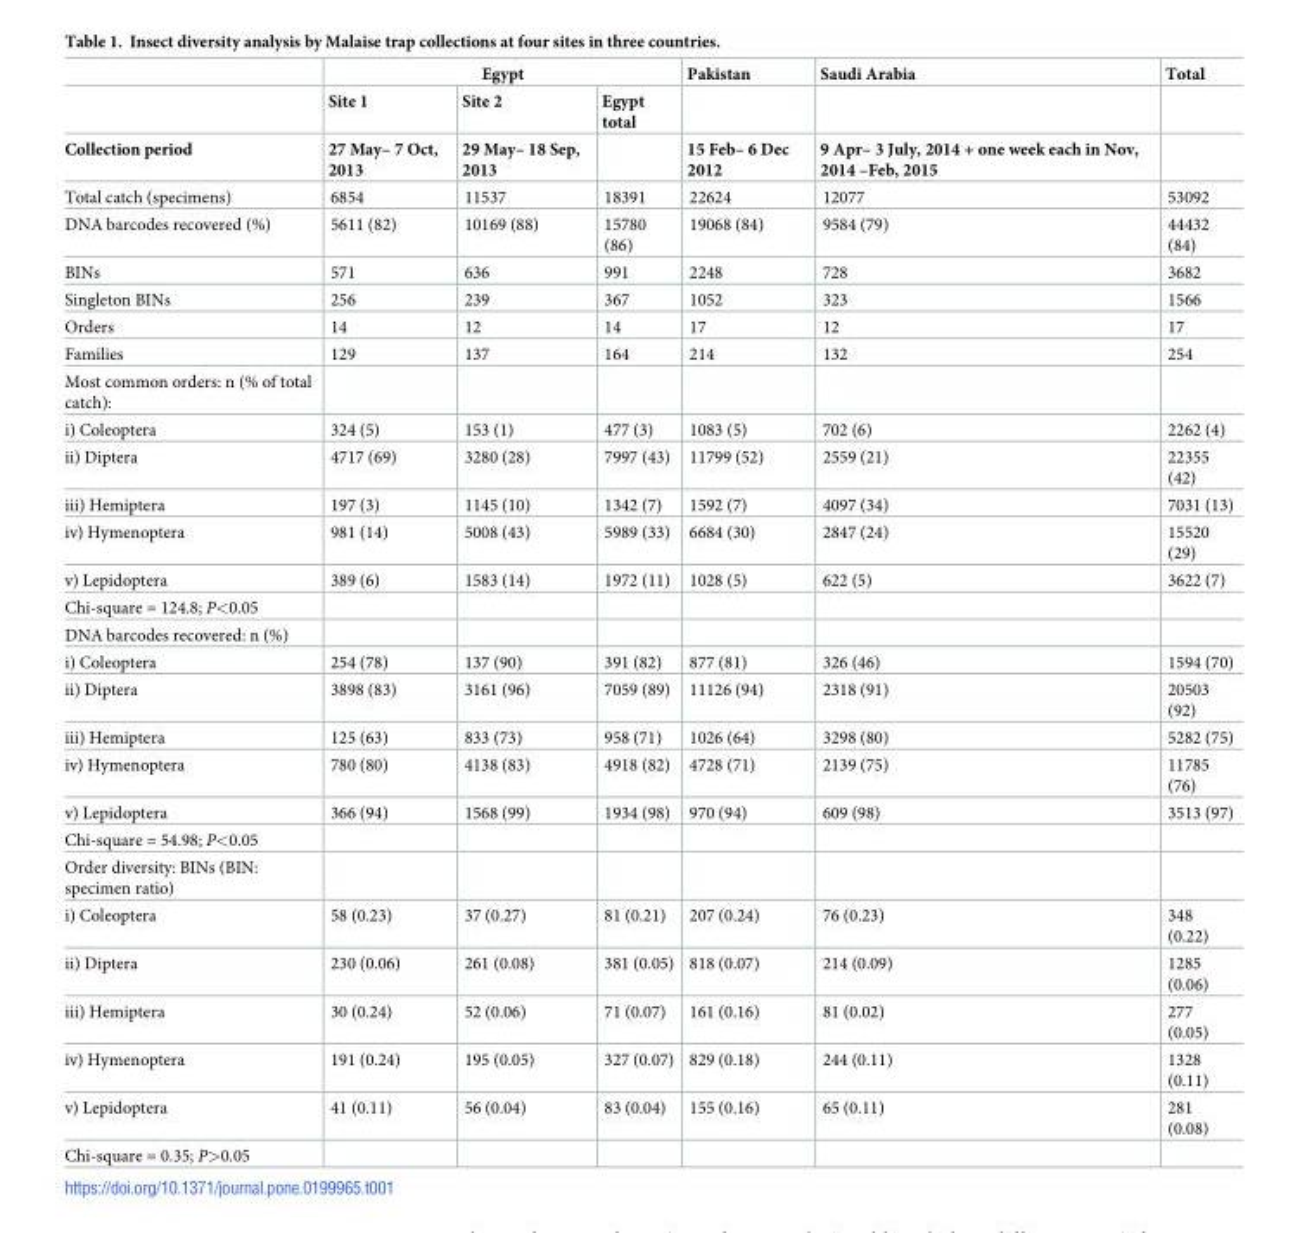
<table><thead><tr><td rowspan="3">Collection period</td><td colspan="3">Egypt</td><td rowspan="3">Pakistan 15 Feb– 6 Dec 2012</td><td rowspan="3">Saudi Arabia 9 Apr– 3 July, 2014 + one week each in Nov, 2014 –Feb, 2015</td><td rowspan="3">Total</td></tr><tr><td rowspan="2">Site 1 27 May– 7 Oct, 2013</td><td rowspan="2">Site 2 29 May– 18 Sep, 2013</td><td rowspan="2">Egypt total</td></tr><tr></tr></thead><tbody><tr><td>Total catch (specimens)</td><td>6854</td><td>11537</td><td>18391</td><td>22624</td><td>12077</td><td>53092</td></tr><tr><td>DNA barcodes recovered (%)</td><td>5611 (82)</td><td>10169 (88)</td><td>15780 (86)</td><td>19068 (84)</td><td>9584 (79)</td><td>44432 (84)</td></tr><tr><td>BINs</td><td>571</td><td>636</td><td>991</td><td>2248</td><td>728</td><td>3682</td></tr><tr><td>Singleton BINs</td><td>256</td><td>239</td><td>367</td><td>1052</td><td>323</td><td>1566</td></tr><tr><td>Orders</td><td>14</td><td>12</td><td>14</td><td>17</td><td>12</td><td>17</td></tr><tr><td>Families</td><td>129</td><td>137</td><td>164</td><td>214</td><td>132</td><td>254</td></tr><tr><td colspan="7">Most common orders: n (% of total catch):</td></tr><tr><td>i) Coleoptera</td><td>324 (5)</td><td>153 (1)</td><td>477 (3)</td><td>1083 (5)</td><td>702 (6)</td><td>2262 (4)</td></tr><tr><td>ii) Diptera</td><td>4717 (69)</td><td>3280 (28)</td><td>7997 (43)</td><td>11799 (52)</td><td>2559 (21)</td><td>22355 (42)</td></tr><tr><td>iii) Hemiptera</td><td>197 (3)</td><td>1145 (10)</td><td>1342 (7)</td><td>1592 (7)</td><td>4097 (34)</td><td>7031 (13)</td></tr><tr><td>iv) Hymenoptera</td><td>981 (14)</td><td>5008 (43)</td><td>5989 (33)</td><td>6684 (30)</td><td>2847 (24)</td><td>15520 (29)</td></tr><tr><td>v) Lepidoptera</td><td>389 (6)</td><td>1583 (14)</td><td>1972 (11)</td><td>1028 (5)</td><td>622 (5)</td><td>3622 (7)</td></tr><tr><td colspan="7">Chi-square = 124.8; P&lt;0.05</td></tr><tr><td colspan="7">DNA barcodes recovered: n (%)</td></tr><tr><td>i) Coleoptera</td><td>254 (78)</td><td>137 (90)</td><td>391 (82)</td><td>877 (81)</td><td>326 (46)</td><td>1594 (70)</td></tr><tr><td>ii) Diptera</td><td>3898 (83)</td><td>3161 (96)</td><td>7059 (89)</td><td>11126 (94)</td><td>2318 (91)</td><td>20503 (92)</td></tr><tr><td>iii) Hemiptera</td><td>125 (63)</td><td>833 (73)</td><td>958 (71)</td><td>1026 (64)</td><td>3298 (80)</td><td>5282 (75)</td></tr><tr><td>iv) Hymenoptera</td><td>780 (80)</td><td>4138 (83)</td><td>4918 (82)</td><td>4728 (71)</td><td>2139 (75)</td><td>11785 (76)</td></tr><tr><td>v) Lepidoptera</td><td>366 (94)</td><td>1568 (99)</td><td>1934 (98)</td><td>970 (94)</td><td>609 (98)</td><td>3513 (97)</td></tr><tr><td colspan="7">Chi-square = 54.98; P&lt;0.05</td></tr><tr><td colspan="7">Order diversity: BINs (BIN: specimen ratio)</td></tr><tr><td>i) Coleoptera</td><td>58 (0.23)</td><td>37 (0.27)</td><td>81 (0.21)</td><td>207 (0.24)</td><td>76 (0.23)</td><td>348 (0.22)</td></tr><tr><td>ii) Diptera</td><td>230 (0.06)</td><td>261 (0.08)</td><td>381 (0.05)</td><td>818 (0.07)</td><td>214 (0.09)</td><td>1285 (0.06)</td></tr><tr><td>iii) Hemiptera</td><td>30 (0.24)</td><td>52 (0.06)</td><td>71 (0.07)</td><td>161 (0.16)</td><td>81 (0.02)</td><td>277 (0.05)</td></tr><tr><td>iv) Hymenoptera</td><td>191 (0.24)</td><td>195 (0.05)</td><td>327 (0.07)</td><td>829 (0.18)</td><td>244 (0.11)</td><td>1328 (0.11)</td></tr><tr><td>v) Lepidoptera</td><td>41 (0.11)</td><td>56 (0.04)</td><td>83 (0.04)</td><td>155 (0.16)</td><td>65 (0.11)</td><td>281 (0.08)</td></tr><tr><td>Chi-square = 0.35; P&gt;0.05</td><td></td><td></td><td></td><td></td><td></td><td></td></tr></tbody></table>